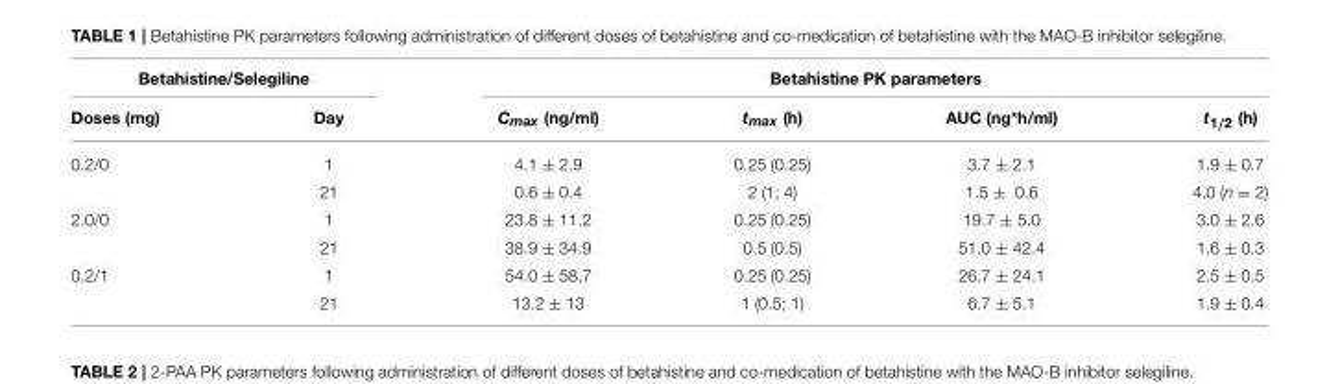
<table><thead><tr><td colspan="2">Betahistine/Selegiline</td><td colspan="4">Betahistine PK parameters</td></tr><tr><td>Doses (mg)</td><td>Day</td><td>C<sub>max</sub> (ng/ml)</td><td>t<sub>max</sub> (h)</td><td>AUC (ng*h/ml)</td><td>t<sub>1/2</sub> (h)</td></tr></thead><tbody><tr><td rowspan="2">0.2/0</td><td>1</td><td>4.1 ± 2.9</td><td>0.25 (0.25)</td><td>3.7 ± 2.1</td><td>1.9 ± 0.7</td></tr><tr><td>21</td><td>0.6 ± 0.4</td><td>2 (1; 4)</td><td>1.5 ± 0.6</td><td>4.0 (n = 2)</td></tr><tr><td rowspan="2">2.0/0</td><td>1</td><td>23.8 ± 11.2</td><td>0.25 (0.25)</td><td>19.7 ± 5.0</td><td>3.0 ± 2.6</td></tr><tr><td>21</td><td>38.9 ± 34.9</td><td>0.5 (0.5)</td><td>51.0 ± 42.4</td><td>1.6 ± 0.3</td></tr><tr><td rowspan="2">0.2/1</td><td>1</td><td>54.0 ± 58,7</td><td>0.25 (0.25)</td><td>26.7 ± 24.1</td><td>2.5 ± 0.5</td></tr><tr><td>21</td><td>13.2 ± 13</td><td>1 (0.5; 1)</td><td>6.7 ± 5.1</td><td>1.9 ± 0.4</td></tr></tbody></table>